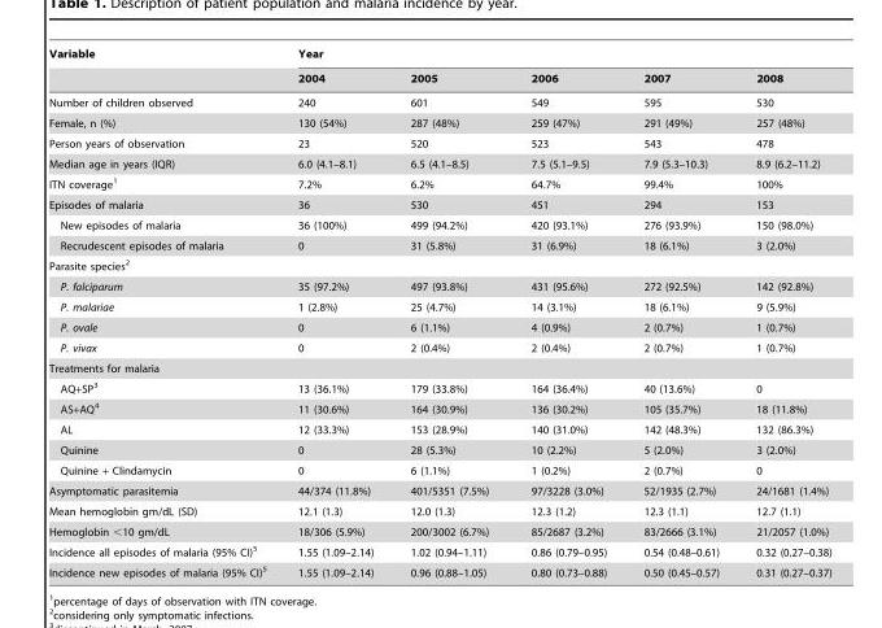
<table><thead><tr><td rowspan="2">Variable</td><td colspan="5">Year</td></tr><tr><td>2004</td><td>2005</td><td>2006</td><td>2007</td><td>2008</td></tr></thead><tbody><tr><td>Number of children observed</td><td>240</td><td>601</td><td>549</td><td>595</td><td>530</td></tr><tr><td>Female, n (%)</td><td>130 (54%)</td><td>287 (48%)</td><td>259 (47%)</td><td>291 (49%)</td><td>257 (48%)</td></tr><tr><td>Person years of observation</td><td>23</td><td>520</td><td>523</td><td>543</td><td>478</td></tr><tr><td>Median age in years (IQR)</td><td>6.0 (4.1–8.1)</td><td>6.5 (4.1–8.5)</td><td>7.5 (5.1–9.5)</td><td>7.9 (5.3–10.3)</td><td>8.9 (6.2–11.2)</td></tr><tr><td>ITN coverage<sup>1</sup></td><td>7.2%</td><td>6.2%</td><td>64.7%</td><td>99.4%</td><td>100%</td></tr><tr><td>Episodes of malaria</td><td>36</td><td>530</td><td>451</td><td>294</td><td>153</td></tr><tr><td>New episodes of malaria</td><td>36 (100%)</td><td>499 (94.2%)</td><td>420 (93.1%)</td><td>276 (93.9%)</td><td>150 (98.0%)</td></tr><tr><td>Recrudescent episodes of malaria</td><td>0</td><td>31 (5.8%)</td><td>31 (6.9%)</td><td>18 (6.1%)</td><td>3 (2.0%)</td></tr><tr><td colspan="6">Parasite species<sup>2</sup></td></tr><tr><td>P. falciparum</td><td>35 (97.2%)</td><td>497 (93.8%)</td><td>431 (95.6%)</td><td>272 (92.5%)</td><td>142 (92.8%)</td></tr><tr><td>P. malariae</td><td>1 (2.8%)</td><td>25 (4.7%)</td><td>14 (3.1%)</td><td>18 (6.1%)</td><td>9 (5.9%)</td></tr><tr><td>P. ovale</td><td>0</td><td>6 (1.1%)</td><td>4 (0.9%)</td><td>2 (0.7%)</td><td>1 (0.7%)</td></tr><tr><td>P. vivax</td><td>0</td><td>2 (0.4%)</td><td>2 (0.4%)</td><td>2 (0.7%)</td><td>1 (0.7%)</td></tr><tr><td colspan="6">Treatments for malaria</td></tr><tr><td>AQ+SP<sup>3</sup></td><td>13 (36.1%)</td><td>179 (33.8%)</td><td>164 (36.4%)</td><td>40 (13.6%)</td><td>0</td></tr><tr><td>AS+AQ<sup>4</sup></td><td>11 (30.6%)</td><td>164 (30.9%)</td><td>136 (30.2%)</td><td>105 (35.7%)</td><td>18 (11.8%)</td></tr><tr><td>AL</td><td>12 (33.3%)</td><td>153 (28.9%)</td><td>140 (31.0%)</td><td>142 (48.3%)</td><td>132 (86.3%)</td></tr><tr><td>Quinine</td><td>0</td><td>28 (5.3%)</td><td>10 (2.2%)</td><td>5 (2.0%)</td><td>3 (2.0%)</td></tr><tr><td>Quinine + Clindamycin</td><td>0</td><td>6 (1.1%)</td><td>1 (0.2%)</td><td>2 (0.7%)</td><td>0</td></tr><tr><td>Asymptomatic parasitemia</td><td>44/374 (11.8%)</td><td>401/5351 (7.5%)</td><td>97/3228 (3.0%)</td><td>52/1935 (2.7%)</td><td>24/1681 (1.4%)</td></tr><tr><td>Mean hemoglobin gm/dL (SD)</td><td>12.1 (1.3)</td><td>12.0 (1.3)</td><td>12.3 (1.2)</td><td>12.3 (1.1)</td><td>12.7 (1.1)</td></tr><tr><td>Hemoglobin &lt;10 gm/dL</td><td>18/306 (5.9%)</td><td>200/3002 (6.7%)</td><td>85/2687 (3.2%)</td><td>83/2666 (3.1%)</td><td>21/2057 (1.0%)</td></tr><tr><td>Incidence all episodes of malaria (95% CI)<sup>5</sup></td><td>1.55 (1.09–2.14)</td><td>1.02 (0.94–1.11)</td><td>0.86 (0.79–0.95)</td><td>0.54 (0.48–0.61)</td><td>0.32 (0.27–0.38)</td></tr><tr><td>Incidence new episodes of malaria (95% CI)<sup>5</sup></td><td>1.55 (1.09–2.14)</td><td>0.96 (0.88–1.05)</td><td>0.80 (0.73–0.88)</td><td>0.50 (0.45–0.57)</td><td>0.31 (0.27–0.37)</td></tr></tbody></table>